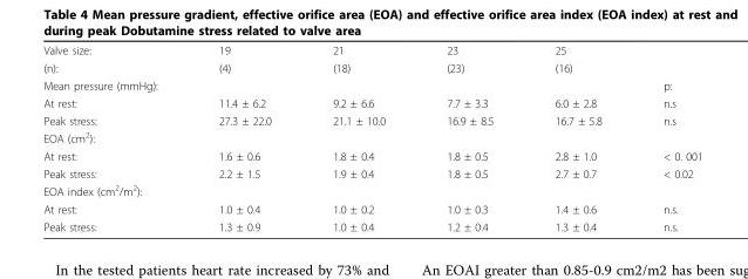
<table><tbody><tr><td>Valve size:</td><td>19</td><td>21</td><td>23</td><td>25</td><td></td></tr><tr><td>(n):</td><td>(4)</td><td>(18)</td><td>(23)</td><td>(16)</td><td></td></tr><tr><td>Mean pressure (mmHg):</td><td></td><td></td><td></td><td></td><td>p:</td></tr><tr><td>At rest:</td><td>11.4 ± 6.2</td><td>9.2 ± 6.6</td><td>7.7 ± 3.3</td><td>6.0 ± 2.8</td><td>n.s</td></tr><tr><td>Peak stress:</td><td>27.3 ± 22.0</td><td>21.1 ± 10.0</td><td>16.9 ± 8.5</td><td>16.7 ± 5.8</td><td>n.s</td></tr><tr><td colspan="6">EOA (cm<sup>2</sup>):</td></tr><tr><td>At rest:</td><td>1.6 ± 0.6</td><td>1.8 ± 0.4</td><td>1.8 ± 0.5</td><td>2.8 ± 1.0</td><td>&lt; 0. 001</td></tr><tr><td>Peak stress:</td><td>2.2 ± 1.5</td><td>1.9 ± 0.4</td><td>1.8 ± 0.5</td><td>2.7 ± 0.7</td><td>&lt; 0.02</td></tr><tr><td colspan="6">EOA index (cm<sup>2</sup>/m<sup>2</sup>):</td></tr><tr><td>At rest:</td><td>1.0 ± 0.4</td><td>1.0 ± 0.2</td><td>1.0 ± 0.3</td><td>1.4 ± 0.6</td><td>n.s.</td></tr><tr><td>Peak stress:</td><td>1.3 ± 0.9</td><td>1.0 ± 0.4</td><td>1.2 ± 0.4</td><td>1.3 ± 0.4</td><td>n.s.</td></tr></tbody></table>